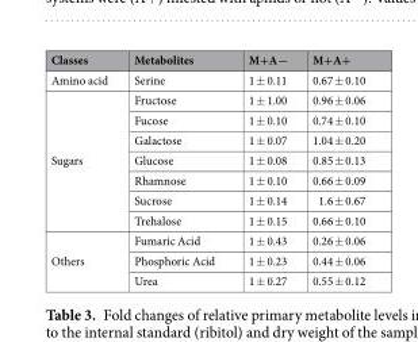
<table><thead><tr><td>Classes</td><td>Metabolites</td><td>M+A−</td><td>M+A+</td></tr></thead><tbody><tr><td>Amino acid</td><td>Serine</td><td>1 ± 0.11</td><td>0.67 ± 0.10</td></tr><tr><td rowspan="7">Sugars</td><td>Fructose</td><td>1 ± 1.00</td><td>0.96 ± 0.06</td></tr><tr><td>Fucose</td><td>1 ± 0.10</td><td>0.74 ± 0.10</td></tr><tr><td>Galactose</td><td>1 ± 0.07</td><td>1.04 ± 0.20</td></tr><tr><td>Glucose</td><td>1 ± 0.08</td><td>0.85 ± 0.13</td></tr><tr><td>Rhamnose</td><td>1 ± 0.10</td><td>0.66 ± 0.09</td></tr><tr><td>Sucrose</td><td>1 ± 0.14</td><td>1.6 ± 0.67</td></tr><tr><td>Trehalose</td><td>1 ± 0.15</td><td>0.66 ± 0.10</td></tr><tr><td rowspan="3">Others</td><td>Fumaric Acid</td><td>1 ± 0.43</td><td>0.26 ± 0.06</td></tr><tr><td>Phosphoric Acid</td><td>1 ± 0.23</td><td>0.44 ± 0.06</td></tr><tr><td>Urea</td><td>1 ± 0.27</td><td>0.55 ± 0.12</td></tr></tbody></table>